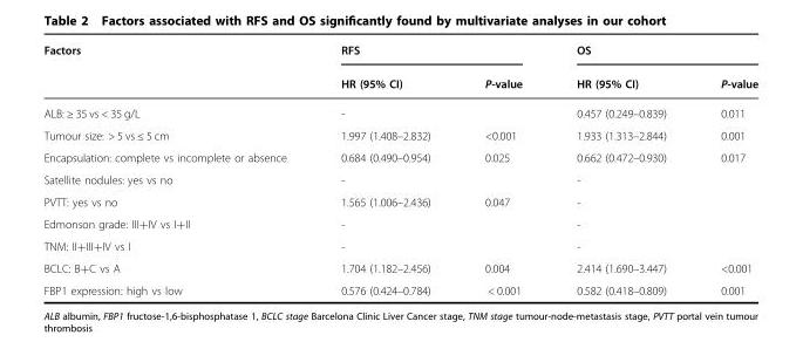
<table><thead><tr><td rowspan="2">Factors</td><td colspan="2">RFS</td><td colspan="2">OS</td></tr><tr><td>HR (95% CI)</td><td>P-value</td><td>HR (95% CI)</td><td>P-value</td></tr></thead><tbody><tr><td>ALB: ≥ 35 vs &lt; 35 g/L</td><td>-</td><td></td><td>0.457 (0.249–0.839)</td><td>0.011</td></tr><tr><td>Tumour size: &gt; 5 vs ≤ 5 cm</td><td>1.997 (1.408–2.832)</td><td>&lt;0.001</td><td>1.933 (1.313–2.844)</td><td>0.001</td></tr><tr><td>Encapsulation: complete vs incomplete or absence</td><td>0.684 (0.490–0.954)</td><td>0.025</td><td>0.662 (0.472–0.930)</td><td>0.017</td></tr><tr><td>Satellite nodules: yes vs no</td><td>-</td><td></td><td>-</td><td></td></tr><tr><td>PVTT: yes vs no</td><td>1.565 (1.006–2.436)</td><td>0.047</td><td>-</td><td></td></tr><tr><td>Edmonson grade: III+IV vs I+II</td><td>-</td><td></td><td>-</td><td></td></tr><tr><td>TNM: II+III+IV vs I</td><td>-</td><td></td><td>-</td><td></td></tr><tr><td>BCLC: B+C vs A</td><td>1.704 (1.182–2.456)</td><td>0.004</td><td>2.414 (1.690–3.447)</td><td>&lt;0.001</td></tr><tr><td>FBP1 expression: high vs low</td><td>0.576 (0.424–0.784)</td><td>&lt; 0.001</td><td>0.582 (0.418–0.809)</td><td>0.001</td></tr></tbody></table>